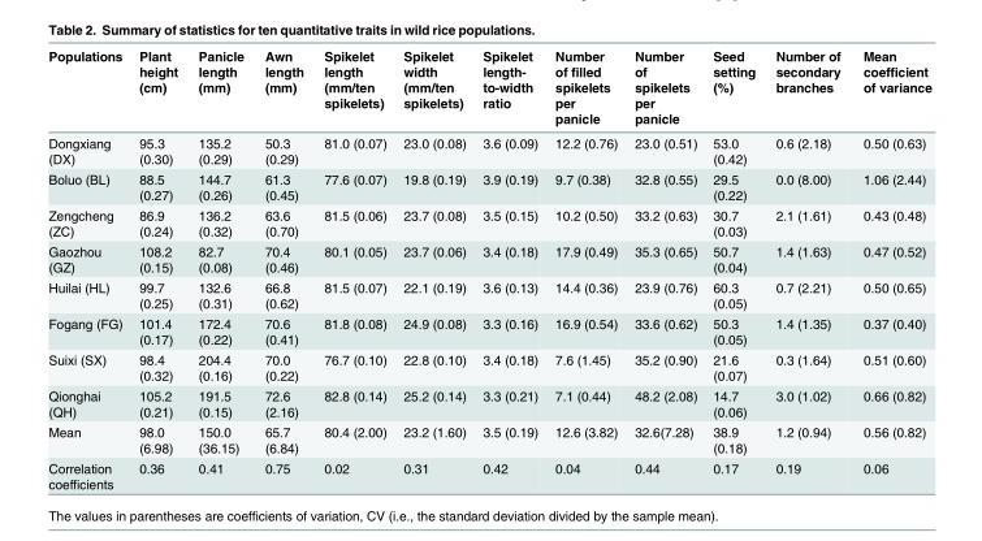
<table><thead><tr><td>Populations</td><td>Plant height (cm)</td><td>Panicle length (mm)</td><td>Awn length (mm)</td><td>Spikelet length (mm/ten spikelets)</td><td>Spikelet width (mm/ten spikelets)</td><td>Spikelet length- to-width ratio</td><td>Number of filled spikelets per panicle</td><td>Number of spikelets per panicle</td><td>Seed setting (%)</td><td>Number of secondary branches</td><td>Mean coefficient of variance</td></tr></thead><tbody><tr><td>Dongxiang (DX)</td><td>95.3 (0.30)</td><td>135.2 (0.29)</td><td>50.3 (0.29)</td><td>81.0 (0.07)</td><td>23.0 (0.08)</td><td>3.6 (0.09)</td><td>12.2 (0.76)</td><td>23.0 (0.51)</td><td>53.0 (0.42)</td><td>0.6 (2.18)</td><td>0.50 (0.63)</td></tr><tr><td>Boluo (BL)</td><td>88.5 (0.27)</td><td>144.7 (0.26)</td><td>61.3 (0.45)</td><td>77.6 (0.07)</td><td>19.8 (0.19)</td><td>3.9 (0.19)</td><td>9.7 (0.38)</td><td>32.8 (0.55)</td><td>29.5 (0.22)</td><td>0.0 (8.00)</td><td>1.06 (2.44)</td></tr><tr><td>Zengcheng (ZC)</td><td>86.9 (0.24)</td><td>136.2 (0.32)</td><td>63.6 (0.70)</td><td>81.5 (0.06)</td><td>23.7 (0.08)</td><td>3.5 (0.15)</td><td>10.2 (0.50)</td><td>33.2 (0.63)</td><td>30.7 (0.03)</td><td>2.1 (1.61)</td><td>0.43 (0.48)</td></tr><tr><td>Gaozhou (GZ)</td><td>108.2 (0.15)</td><td>82.7 (0.08)</td><td>70.4 (0.46)</td><td>80.1 (0.05)</td><td>23.7 (0.06)</td><td>3.4 (0.18)</td><td>17.9 (0.49)</td><td>35.3 (0.65)</td><td>50.7 (0.04)</td><td>1.4 (1.63)</td><td>0.47 (0.52)</td></tr><tr><td>Huilai (HL)</td><td>99.7 (0.25)</td><td>132.6 (0.31)</td><td>66.8 (0.62)</td><td>81.5 (0.07)</td><td>22.1 (0.19)</td><td>3.6 (0.13)</td><td>14.4 (0.36)</td><td>23.9 (0.76)</td><td>60.3 (0.05)</td><td>0.7 (2.21)</td><td>0.50 (0.65)</td></tr><tr><td>Fogang (FG)</td><td>101.4 (0.17)</td><td>172.4 (0.22)</td><td>70.6 (0.41)</td><td>81.8 (0.08)</td><td>24.9 (0.08)</td><td>3.3 (0.16)</td><td>16.9 (0.54)</td><td>33.6 (0.62)</td><td>50.3 (0.05)</td><td>1.4 (1.35)</td><td>0.37 (0.40)</td></tr><tr><td>Suixi (SX)</td><td>98.4 (0.32)</td><td>204.4 (0.16)</td><td>70.0 (0.22)</td><td>76.7 (0.10)</td><td>22.8 (0.10)</td><td>3.4 (0.18)</td><td>7.6 (1.45)</td><td>35.2 (0.90)</td><td>21.6 (0.07)</td><td>0.3 (1.64)</td><td>0.51 (0.60)</td></tr><tr><td>Qionghai (QH)</td><td>105.2 (0.21)</td><td>191.5 (0.15)</td><td>72.6 (2.16)</td><td>82.8 (0.14)</td><td>25.2 (0.14)</td><td>3.3 (0.21)</td><td>7.1 (0.44)</td><td>48.2 (2.08)</td><td>14.7 (0.06)</td><td>3.0 (1.02)</td><td>0.66 (0.82)</td></tr><tr><td>Mean</td><td>98.0 (6.98)</td><td>150.0 (36.15)</td><td>65.7 (6.84)</td><td>80.4 (2.00)</td><td>23.2 (1.60)</td><td>3.5 (0.19)</td><td>12.6 (3.82)</td><td>32.6(7.28)</td><td>38.9 (0.18)</td><td>1.2 (0.94)</td><td>0.56 (0.82)</td></tr><tr><td>Correlation coefficients</td><td>0.36</td><td>0.41</td><td>0.75</td><td>0.02</td><td>0.31</td><td>0.42</td><td>0.04</td><td>0.44</td><td>0.17</td><td>0.19</td><td>0.06</td></tr></tbody></table>